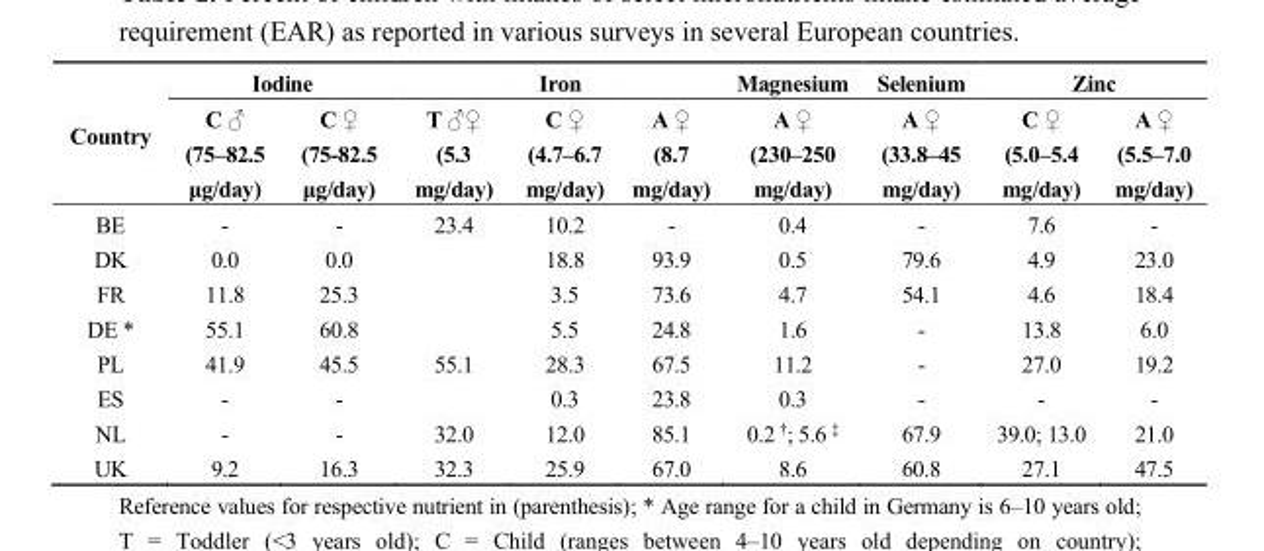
<table><thead><tr><td rowspan="2">Country</td><td colspan="2">Iodine</td><td colspan="3">Iron</td><td rowspan="2">Magnesium A ♀ (230–250 mg/day)</td><td rowspan="2">Selenium A ♀ (33.8–45 mg/day)</td><td colspan="2">Zinc</td></tr><tr><td>C ♂ (75–82.5 μg/day)</td><td>C ♀ (75-82.5 μg/day)</td><td>T ♂♀ (5.3 mg/day)</td><td>C ♀ (4.7–6.7 mg/day)</td><td>A ♀ (8.7 mg/day)</td><td>C ♀ (5.0–5.4 mg/day)</td><td>A ♀ (5.5–7.0 mg/day)</td></tr></thead><tbody><tr><td>BE</td><td>-</td><td>-</td><td>23.4</td><td>10.2</td><td>-</td><td>0.4</td><td>-</td><td>7.6</td><td>-</td></tr><tr><td>DK</td><td>0.0</td><td>0.0</td><td></td><td>18.8</td><td>93.9</td><td>0.5</td><td>79.6</td><td>4.9</td><td>23.0</td></tr><tr><td>FR</td><td>11.8</td><td>25.3</td><td></td><td>3.5</td><td>73.6</td><td>4.7</td><td>54.1</td><td>4.6</td><td>18.4</td></tr><tr><td>DE *</td><td>55.1</td><td>60.8</td><td></td><td>5.5</td><td>24.8</td><td>1.6</td><td>-</td><td>13.8</td><td>6.0</td></tr><tr><td>PL</td><td>41.9</td><td>45.5</td><td>55.1</td><td>28.3</td><td>67.5</td><td>11.2</td><td>-</td><td>27.0</td><td>19.2</td></tr><tr><td>ES</td><td>-</td><td>-</td><td></td><td>0.3</td><td>23.8</td><td>0.3</td><td>-</td><td>-</td><td>-</td></tr><tr><td>NL</td><td>-</td><td>-</td><td>32.0</td><td>12.0</td><td>85.1</td><td>0.2 <sup>†</sup>; 5.6 <sup>‡</sup></td><td>67.9</td><td>39.0; 13.0</td><td>21.0</td></tr><tr><td>UK</td><td>9.2</td><td>16.3</td><td>32.3</td><td>25.9</td><td>67.0</td><td>8.6</td><td>60.8</td><td>27.1</td><td>47.5</td></tr></tbody></table>